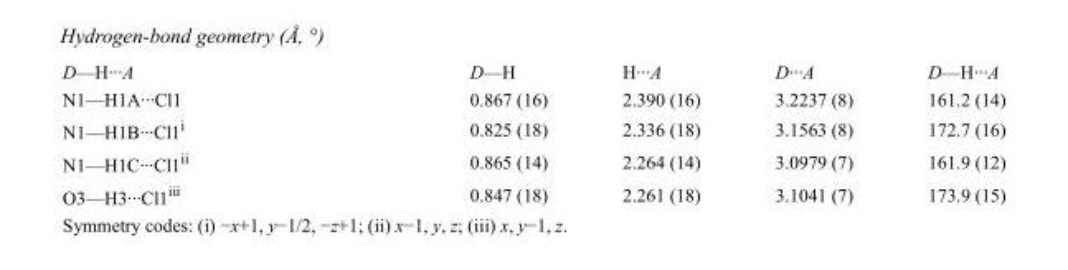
<table><tbody><tr><td>D—H···A</td><td>D—H</td><td>H···A</td><td>D···A</td><td>D—H···A</td></tr><tr><td>N1—H1A···Cl1</td><td>0.867 (16)</td><td>2.390 (16)</td><td>3.2237 (8)</td><td>161.2 (14)</td></tr><tr><td>N1—H1B···Cl1<sup>i</sup></td><td>0.825 (18)</td><td>2.336 (18)</td><td>3.1563 (8)</td><td>172.7 (16)</td></tr><tr><td>N1—H1C···Cl1<sup>ii</sup></td><td>0.865 (14)</td><td>2.264 (14)</td><td>3.0979 (7)</td><td>161.9 (12)</td></tr><tr><td>O3—H3···Cl1<sup>iii</sup></td><td>0.847 (18)</td><td>2.261 (18)</td><td>3.1041 (7)</td><td>173.9 (15)</td></tr></tbody></table>